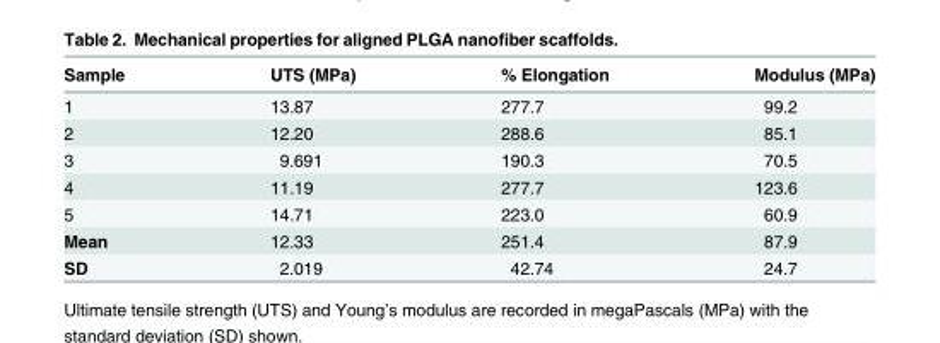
<table><thead><tr><td>Sample</td><td>UTS (MPa)</td><td>% Elongation</td><td>Modulus (MPa)</td></tr></thead><tbody><tr><td>1</td><td>13.87</td><td>277.7</td><td>99.2</td></tr><tr><td>2</td><td>12.20</td><td>288.6</td><td>85.1</td></tr><tr><td>3</td><td>9.691</td><td>190.3</td><td>70.5</td></tr><tr><td>4</td><td>11.19</td><td>277.7</td><td>123.6</td></tr><tr><td>5</td><td>14.71</td><td>223.0</td><td>60.9</td></tr><tr><td>Mean</td><td>12.33</td><td>251.4</td><td>87.9</td></tr><tr><td>SD</td><td>2.019</td><td>42.74</td><td>24.7</td></tr></tbody></table>